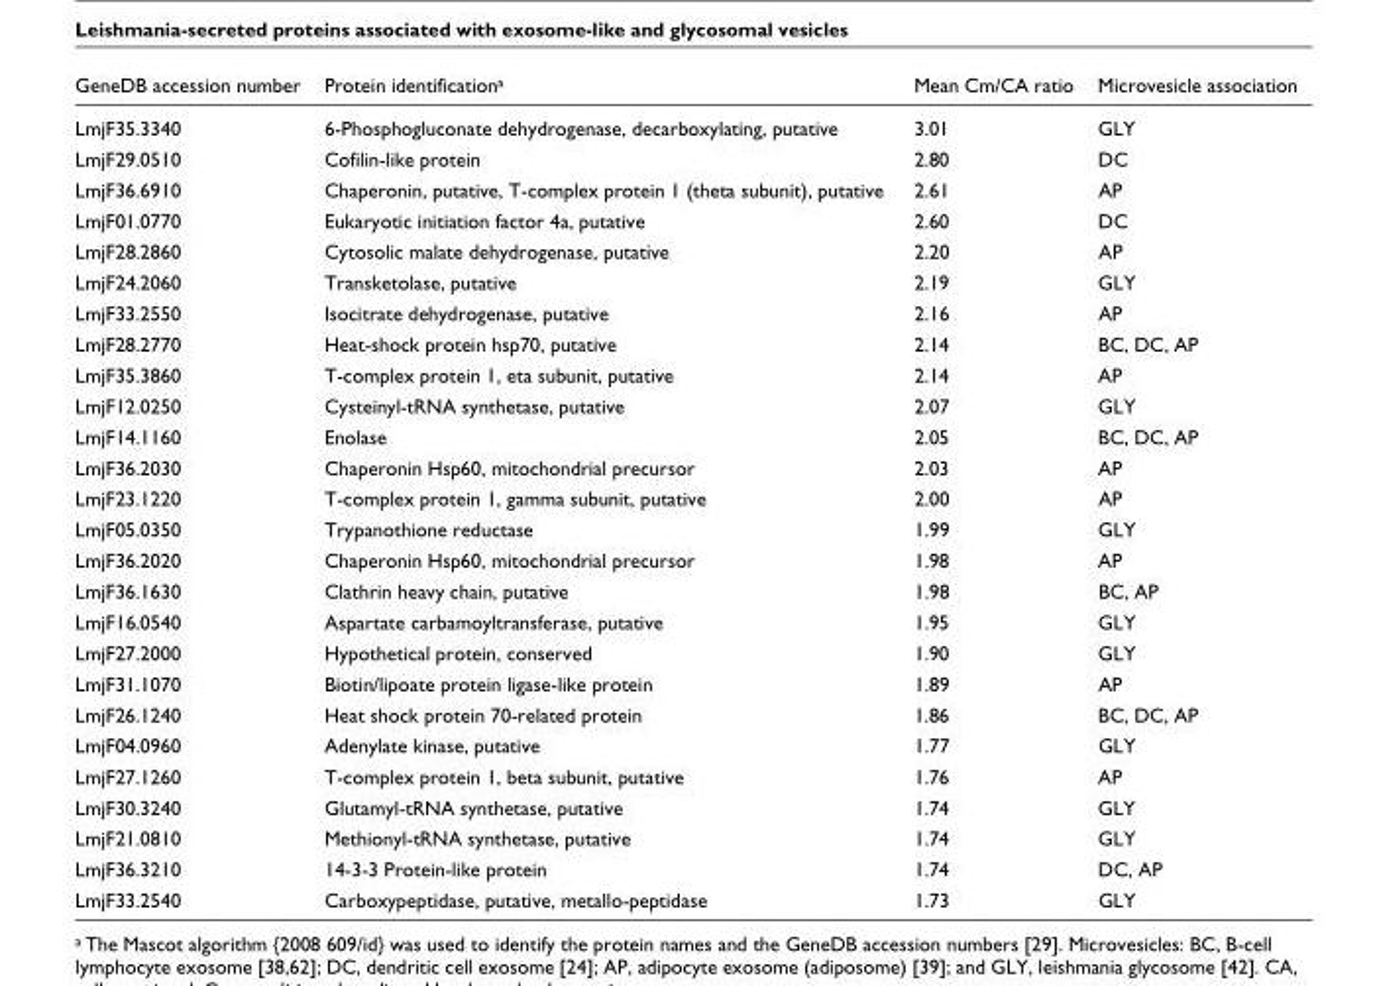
<table><thead><tr><td>GeneDB accession number</td><td>Protein identification<sup>a</sup></td><td>Mean Cm/CA ratio</td><td>Microvesicle association</td></tr></thead><tbody><tr><td>LmjF35.3340</td><td>6-Phosphogluconate dehydrogenase, decarboxylating, putative</td><td>3.01</td><td>GLY</td></tr><tr><td>LmjF29.0510</td><td>Cofilin-like protein</td><td>2.80</td><td>DC</td></tr><tr><td>LmjF36.6910</td><td>Chaperonin, putative, T-complex protein 1 (theta subunit), putative</td><td>2.61</td><td>AP</td></tr><tr><td>LmjF01.0770</td><td>Eukaryotic initiation factor 4a, putative</td><td>2.60</td><td>DC</td></tr><tr><td>LmjF28.2860</td><td>Cytosolic malate dehydrogenase, putative</td><td>2.20</td><td>AP</td></tr><tr><td>LmjF24.2060</td><td>Transketolase, putative</td><td>2.19</td><td>GLY</td></tr><tr><td>LmjF33.2550</td><td>Isocitrate dehydrogenase, putative</td><td>2.16</td><td>AP</td></tr><tr><td>LmjF28.2770</td><td>Heat-shock protein hsp70, putative</td><td>2.14</td><td>BC, DC, AP</td></tr><tr><td>LmjF35.3860</td><td>T-complex protein 1, eta subunit, putative</td><td>2.14</td><td>AP</td></tr><tr><td>LmjF12.0250</td><td>Cysteinyl-tRNA synthetase, putative</td><td>2.07</td><td>GLY</td></tr><tr><td>LmjF14.1160</td><td>Enolase</td><td>2.05</td><td>BC, DC, AP</td></tr><tr><td>LmjF36.2030</td><td>Chaperonin Hsp60, mitochondrial precursor</td><td>2.03</td><td>AP</td></tr><tr><td>LmjF23.1220</td><td>T-complex protein 1, gamma subunit, putative</td><td>2.00</td><td>AP</td></tr><tr><td>LmjF05.0350</td><td>Trypanothione reductase</td><td>1.99</td><td>GLY</td></tr><tr><td>LmjF36.2020</td><td>Chaperonin Hsp60, mitochondrial precursor</td><td>1.98</td><td>AP</td></tr><tr><td>LmjF36.1630</td><td>Clathrin heavy chain, putative</td><td>1.98</td><td>BC, AP</td></tr><tr><td>LmjF16.0540</td><td>Aspartate carbamoyltransferase, putative</td><td>1.95</td><td>GLY</td></tr><tr><td>LmjF27.2000</td><td>Hypothetical protein, conserved</td><td>1.90</td><td>GLY</td></tr><tr><td>LmjF31.1070</td><td>Biotin/lipoate protein ligase-like protein</td><td>1.89</td><td>AP</td></tr><tr><td>LmjF26.1240</td><td>Heat shock protein 70-related protein</td><td>1.86</td><td>BC, DC, AP</td></tr><tr><td>LmjF04.0960</td><td>Adenylate kinase, putative</td><td>1.77</td><td>GLY</td></tr><tr><td>LmjF27.1260</td><td>T-complex protein 1, beta subunit, putative</td><td>1.76</td><td>AP</td></tr><tr><td>LmjF30.3240</td><td>Glutamyl-tRNA synthetase, putative</td><td>1.74</td><td>GLY</td></tr><tr><td>LmjF21.0810</td><td>Methionyl-tRNA synthetase, putative</td><td>1.74</td><td>GLY</td></tr><tr><td>LmjF36.3210</td><td>14-3-3 Protein-like protein</td><td>1.74</td><td>DC, AP</td></tr><tr><td>LmjF33.2540</td><td>Carboxypeptidase, putative, metallo-peptidase</td><td>1.73</td><td>GLY</td></tr></tbody></table>